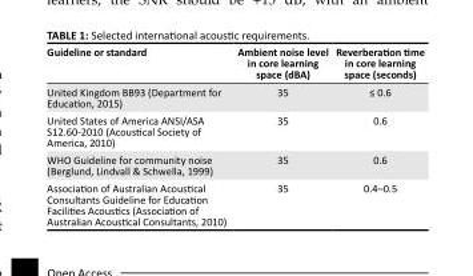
<table><thead><tr><td>Guideline or standard</td><td>Ambient noise level in core learning space (dBA)</td><td>Reverberation time in core learning space (seconds)</td></tr></thead><tbody><tr><td>United Kingdom BB93 (Department for Education, 2015)</td><td>35</td><td>≤ 0.6</td></tr><tr><td>United States of America ANSI/ASA S12.60-2010 (Acoustical Society of America, 2010)</td><td>35</td><td>0.6</td></tr><tr><td>WHO Guideline for community noise (Berglund, Lindvall &amp; Schwella, 1999)</td><td>35</td><td>0.6</td></tr><tr><td>Association of Australian Acoustical Consultants Guideline for Education Facilities Acoustics (Association of Australian Acoustical Consultants, 2010)</td><td>35</td><td>0.4–0.5</td></tr></tbody></table>